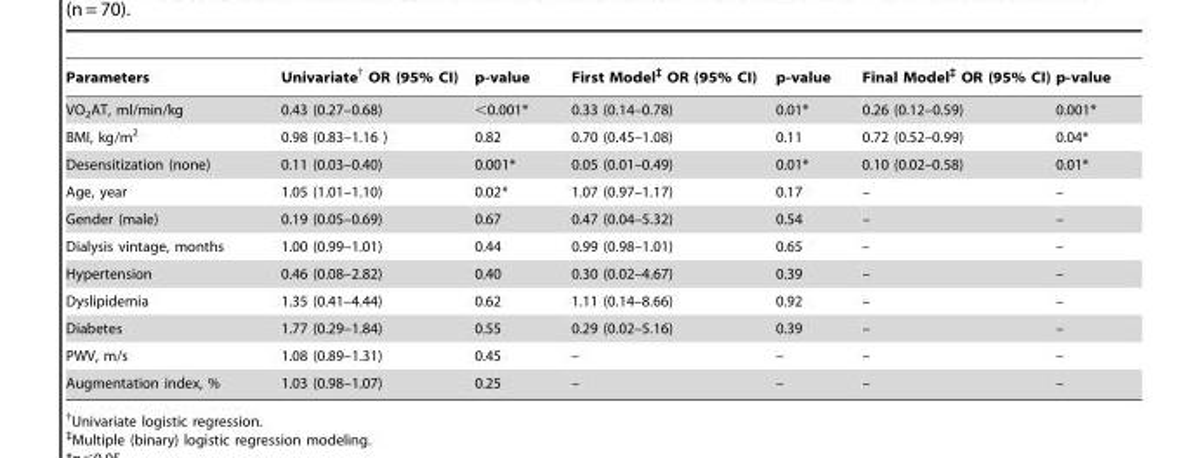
<table><thead><tr><td>Parameters</td><td>Univariate† OR (95% CI)</td><td>p-value</td><td>First Model‡ OR (95% CI)</td><td>p-value</td><td>Final Model‡ OR (95% CI)</td><td>p-value</td></tr></thead><tbody><tr><td>VO<sub>2</sub>AT, ml/min/kg</td><td>0.43 (0.27–0.68)</td><td>&lt;0.001*</td><td>0.33 (0.14–0.78)</td><td>0.01*</td><td>0.26 (0.12–0.59)</td><td>0.001*</td></tr><tr><td>BMI, kg/m<sup>2</sup></td><td>0.98 (0.83–1.16 )</td><td>0.82</td><td>0.70 (0.45–1.08)</td><td>0.11</td><td>0.72 (0.52–0.99)</td><td>0.04*</td></tr><tr><td>Desensitization (none)</td><td>0.11 (0.03–0.40)</td><td>0.001*</td><td>0.05 (0.01–0.49)</td><td>0.01*</td><td>0.10 (0.02–0.58)</td><td>0.01*</td></tr><tr><td>Age, year</td><td>1.05 (1.01–1.10)</td><td>0.02*</td><td>1.07 (0.97–1.17)</td><td>0.17</td><td>–</td><td>–</td></tr><tr><td>Gender (male)</td><td>0.19 (0.05–0.69)</td><td>0.67</td><td>0.47 (0.04–5.32)</td><td>0.54</td><td>–</td><td>–</td></tr><tr><td>Dialysis vintage, months</td><td>1.00 (0.99–1.01)</td><td>0.44</td><td>0.99 (0.98–1.01)</td><td>0.65</td><td>–</td><td>–</td></tr><tr><td>Hypertension</td><td>0.46 (0.08–2.82)</td><td>0.40</td><td>0.30 (0.02–4.67)</td><td>0.39</td><td>–</td><td>–</td></tr><tr><td>Dyslipidemia</td><td>1.35 (0.41–4.44)</td><td>0.62</td><td>1.11 (0.14–8.66)</td><td>0.92</td><td>–</td><td>–</td></tr><tr><td>Diabetes</td><td>1.77 (0.29–1.84)</td><td>0.55</td><td>0.29 (0.02–5.16)</td><td>0.39</td><td>–</td><td>–</td></tr><tr><td>PWV, m/s</td><td>1.08 (0.89–1.31)</td><td>0.45</td><td>–</td><td>–</td><td>–</td><td>–</td></tr><tr><td>Augmentation index, %</td><td>1.03 (0.98–1.07)</td><td>0.25</td><td>–</td><td>–</td><td>–</td><td>–</td></tr></tbody></table>